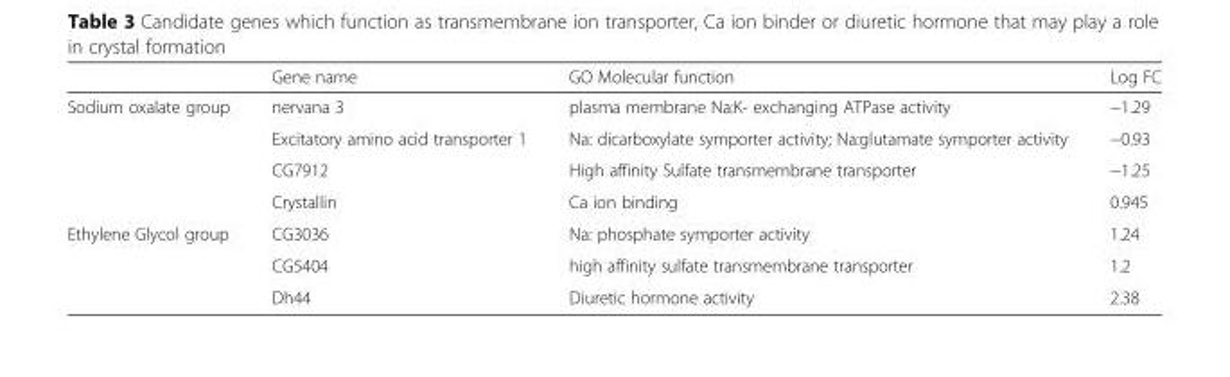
<table><thead><tr><td></td><td>Gene name</td><td>GO Molecular function</td><td>Log FC</td></tr></thead><tbody><tr><td rowspan="4">Sodium oxalate group</td><td>nervana 3</td><td>plasma membrane Na:K- exchanging ATPase activity</td><td>−1.29</td></tr><tr><td>Excitatory amino acid transporter 1</td><td>Na: dicarboxylate symporter activity; Na:glutamate symporter activity</td><td>−0.93</td></tr><tr><td>CG7912</td><td>High affinity Sulfate transmembrane transporter</td><td>−1.25</td></tr><tr><td>Crystallin</td><td>Ca ion binding</td><td>0.945</td></tr><tr><td rowspan="3">Ethylene Glycol group</td><td>CG3036</td><td>Na: phosphate symporter activity</td><td>1.24</td></tr><tr><td>CG5404</td><td>high affinity sulfate transmembrane transporter</td><td>1.2</td></tr><tr><td>Dh44</td><td>Diuretic hormone activity</td><td>2.38</td></tr></tbody></table>